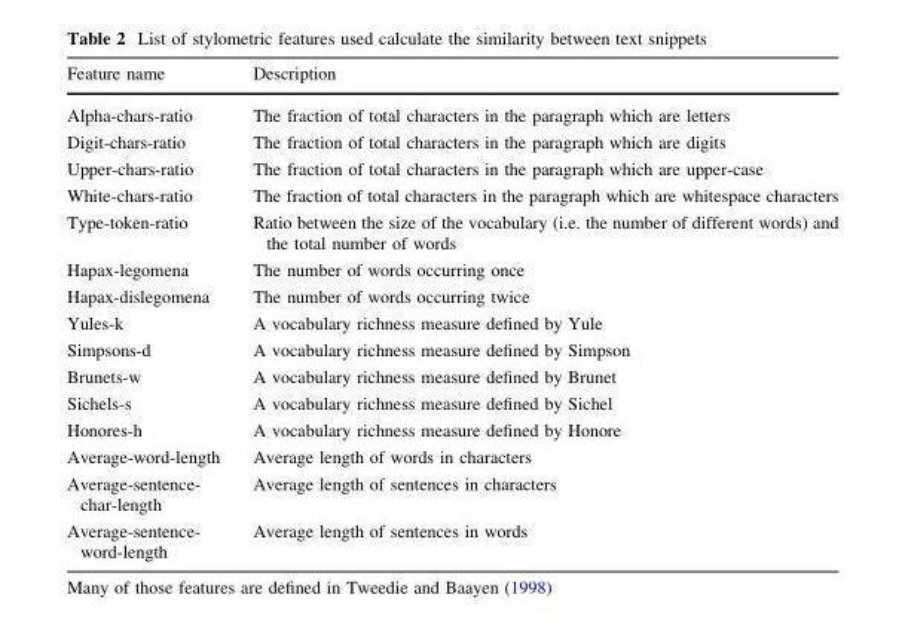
<table><thead><tr><td>Feature name</td><td>Description</td></tr></thead><tbody><tr><td>Alpha-chars-ratio</td><td>The fraction of total characters in the paragraph which are letters</td></tr><tr><td>Digit-chars-ratio</td><td>The fraction of total characters in the paragraph which are digits</td></tr><tr><td>Upper-chars-ratio</td><td>The fraction of total characters in the paragraph which are upper-case</td></tr><tr><td>White-chars-ratio</td><td>The fraction of total characters in the paragraph which are whitespace characters</td></tr><tr><td>Type-token-ratio</td><td>Ratio between the size of the vocabulary (i.e. the number of different words) and the total number of words</td></tr><tr><td>Hapax-legomena</td><td>The number of words occurring once</td></tr><tr><td>Hapax-dislegomena</td><td>The number of words occurring twice</td></tr><tr><td>Yules-k</td><td>A vocabulary richness measure defined by Yule</td></tr><tr><td>Simpsons-d</td><td>A vocabulary richness measure defined by Simpson</td></tr><tr><td>Brunets-w</td><td>A vocabulary richness measure defined by Brunet</td></tr><tr><td>Sichels-s</td><td>A vocabulary richness measure defined by Sichel</td></tr><tr><td>Honores-h</td><td>A vocabulary richness measure defined by Honore</td></tr><tr><td>Average-word-length</td><td>Average length of words in characters</td></tr><tr><td>Average-sentence- char-length</td><td>Average length of sentences in characters</td></tr><tr><td>Average-sentence- word-length</td><td>Average length of sentences in words</td></tr></tbody></table>